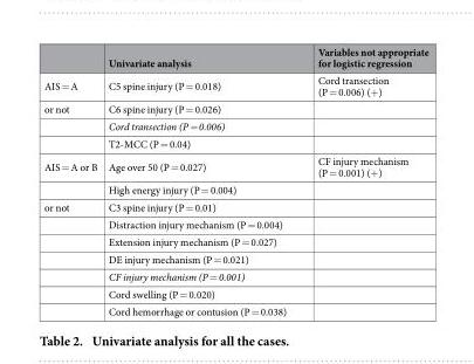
<table><thead><tr><td></td><td>Univariate analysis</td><td>Variables not appropriate for logistic regression</td></tr></thead><tbody><tr><td>AIS = A</td><td>C5 spine injury (P = 0.018)</td><td>Cord transection (P = 0.006) (+ )</td></tr><tr><td rowspan="3">or not</td><td>C6 spine injury (P = 0.026)</td><td></td></tr><tr><td>Cord transection (P = 0.006)</td><td></td></tr><tr><td>T2-MCC (P = 0.04)</td><td></td></tr><tr><td rowspan="2">AIS = A or B</td><td>Age over 50 (P = 0.027)</td><td>CF injury mechanism (P = 0.001) (+ )</td></tr><tr><td>High energy injury (P = 0.004)</td><td></td></tr><tr><td rowspan="7">or not</td><td>C3 spine injury (P = 0.01)</td><td></td></tr><tr><td>Distraction injury mechanism (P = 0.004)</td><td></td></tr><tr><td>Extension injury mechanism (P = 0.027)</td><td></td></tr><tr><td>DE injury mechanism (P = 0.021)</td><td></td></tr><tr><td>CF injury mechanism (P = 0.001)</td><td></td></tr><tr><td>Cord swelling (P = 0.020)</td><td></td></tr><tr><td>Cord hemorrhage or contusion (P = 0.038)</td><td></td></tr></tbody></table>